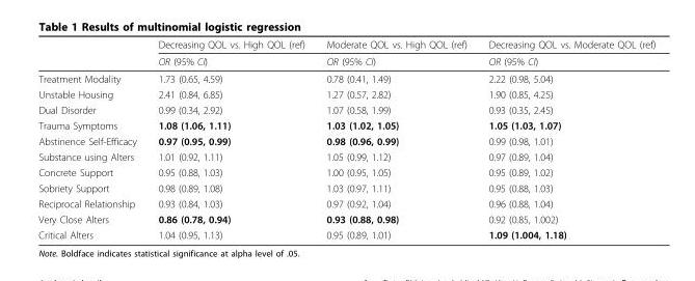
<table><thead><tr><td rowspan="2"></td><td rowspan="2">Decreasing QOL vs. High QOL (ref) OR (95% CI)</td><td rowspan="2">Moderate QOL vs. High QOL (ref) OR (95% CI)</td><td rowspan="2">Decreasing QOL vs. Moderate QOL (ref) OR (95% CI)</td></tr><tr></tr></thead><tbody><tr><td>Treatment Modality</td><td>1.73 (0.65, 4.59)</td><td>0.78 (0.41, 1.49)</td><td>2.22 (0.98, 5.04)</td></tr><tr><td>Unstable Housing</td><td>2.41 (0.84, 6.85)</td><td>1.27 (0.57, 2.82)</td><td>1.90 (0.85, 4.25)</td></tr><tr><td>Dual Disorder</td><td>0.99 (0.34, 2.92)</td><td>1.07 (0.58, 1.99)</td><td>0.93 (0.35, 2.45)</td></tr><tr><td>Trauma Symptoms</td><td>1.08 (1.06, 1.11)</td><td>1.03 (1.02, 1.05)</td><td>1.05 (1.03, 1.07)</td></tr><tr><td>Abstinence Self-Efficacy</td><td>0.97 (0.95, 0.99)</td><td>0.98 (0.96, 0.99)</td><td>0.99 (0.98, 1.01)</td></tr><tr><td>Substance using Alters</td><td>1.01 (0.92, 1.11)</td><td>1.05 (0.99, 1.12)</td><td>0.97 (0.89, 1.04)</td></tr><tr><td>Concrete Support</td><td>0.95 (0.88, 1.03)</td><td>1.00 (0.95, 1.05)</td><td>0.95 (0.89, 1.02)</td></tr><tr><td>Sobriety Support</td><td>0.98 (0.89, 1.08)</td><td>1.03 (0.97, 1.11)</td><td>0.95 (0.88, 1.03)</td></tr><tr><td>Reciprocal Relationship</td><td>0.93 (0.84, 1.03)</td><td>0.97 (0.92, 1.04)</td><td>0.96 (0.88, 1.04)</td></tr><tr><td>Very Close Alters</td><td>0.86 (0.78, 0.94)</td><td>0.93 (0.88, 0.98)</td><td>0.92 (0.85, 1.002)</td></tr><tr><td>Critical Alters</td><td>1.04 (0.95, 1.13)</td><td>0.95 (0.89, 1.01)</td><td>1.09 (1.004, 1.18)</td></tr></tbody></table>